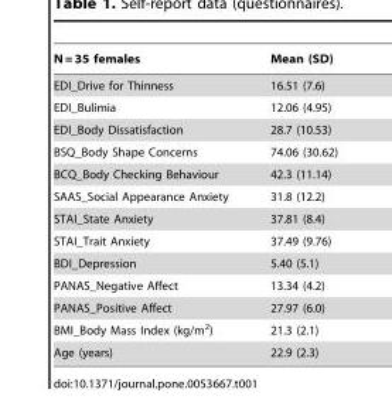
<table><thead><tr><td>N = 35 females</td><td>Mean (SD)</td></tr></thead><tbody><tr><td>EDI_Drive for Thinness</td><td>16.51 (7.6)</td></tr><tr><td>EDI_Bulimia</td><td>12.06 (4.95)</td></tr><tr><td>EDI_Body Dissatisfaction</td><td>28.7 (10.53)</td></tr><tr><td>BSQ_Body Shape Concerns</td><td>74.06 (30.62)</td></tr><tr><td>BCQ_Body Checking Behaviour</td><td>42.3 (11.14)</td></tr><tr><td>SAAS_Social Appearance Anxiety</td><td>31.8 (12.2)</td></tr><tr><td>STAI_State Anxiety</td><td>37.81 (8.4)</td></tr><tr><td>STAI_Trait Anxiety</td><td>37.49 (9.76)</td></tr><tr><td>BDI_Depression</td><td>5.40 (5.1)</td></tr><tr><td>PANAS_Negative Affect</td><td>13.34 (4.2)</td></tr><tr><td>PANAS_Positive Affect</td><td>27.97 (6.0)</td></tr><tr><td>BMI_Body Mass Index (kg/m<sup>2</sup>)</td><td>21.3 (2.1)</td></tr><tr><td>Age (years)</td><td>22.9 (2.3)</td></tr></tbody></table>